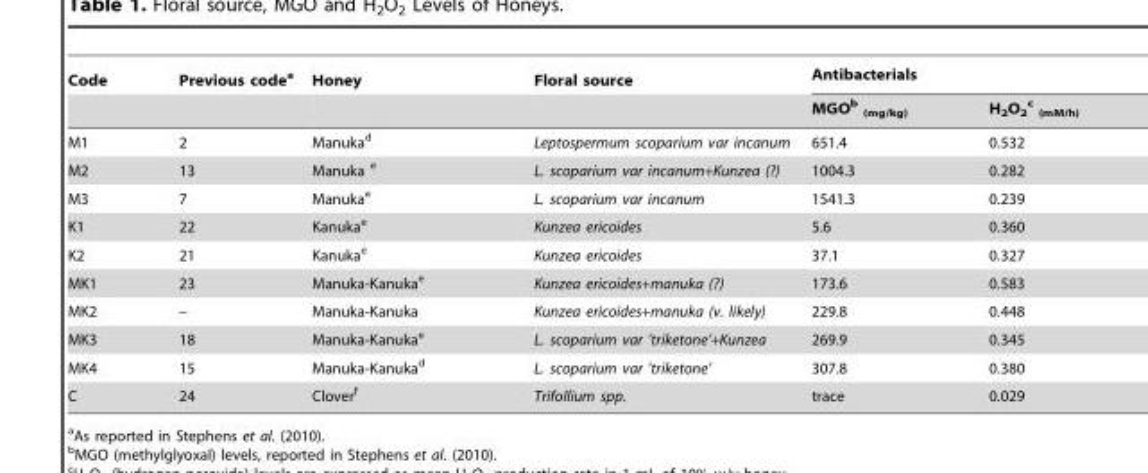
<table><thead><tr><td rowspan="2">Code</td><td rowspan="2">Previous code<sup>a</sup></td><td rowspan="2">Honey</td><td rowspan="2">Floral source</td><td colspan="2">Antibacterials</td></tr><tr><td>MGO<sup>b</sup> <sub>(mg/kg)</sub></td><td>H<sub>2</sub>O<sub>2</sub> c <sub>(mM/h)</sub></td></tr></thead><tbody><tr><td>M1</td><td>2</td><td>Manuka<sup>d</sup></td><td>Leptospermum scoparium var incanum</td><td>651.4</td><td>0.532</td></tr><tr><td>M2</td><td>13</td><td>Manuka e</td><td>L. scoparium var incanum+Kunzea (?)</td><td>1004.3</td><td>0.282</td></tr><tr><td>M3</td><td>7</td><td>Manuka<sup>e</sup></td><td>L. scoparium var incanum</td><td>1541.3</td><td>0.239</td></tr><tr><td>K1</td><td>22</td><td>Kanuka<sup>e</sup></td><td>Kunzea ericoides</td><td>5.6</td><td>0.360</td></tr><tr><td>K2</td><td>21</td><td>Kanuka<sup>e</sup></td><td>Kunzea ericoides</td><td>37.1</td><td>0.327</td></tr><tr><td>MK1</td><td>23</td><td>Manuka-Kanuka<sup>e</sup></td><td>Kunzea ericoides+manuka (?)</td><td>173.6</td><td>0.583</td></tr><tr><td>MK2</td><td>–</td><td>Manuka-Kanuka</td><td>Kunzea ericoides+manuka (v. likely)</td><td>229.8</td><td>0.448</td></tr><tr><td>MK3</td><td>18</td><td>Manuka-Kanuka<sup>e</sup></td><td>L. scoparium var ’triketone’+Kunzea</td><td>269.9</td><td>0.345</td></tr><tr><td>MK4</td><td>15</td><td>Manuka-Kanuka<sup>d</sup></td><td>L. scoparium var ’triketone’</td><td>307.8</td><td>0.380</td></tr><tr><td>C</td><td>24</td><td>Clover<sup>f</sup></td><td>Trifollium spp.</td><td>trace</td><td>0.029</td></tr></tbody></table>